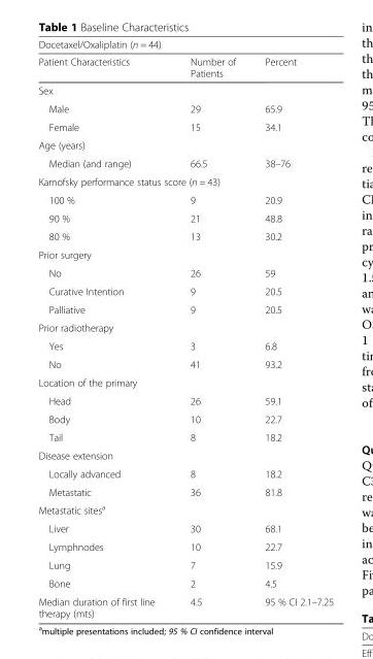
<table><thead><tr><td colspan="3">Docetaxel/Oxaliplatin (n = 44)</td></tr><tr><td>Patient Characteristics</td><td>Number of Patients</td><td>Percent</td></tr></thead><tbody><tr><td colspan="3">Sex</td></tr><tr><td>Male</td><td>29</td><td>65.9</td></tr><tr><td>Female</td><td>15</td><td>34.1</td></tr><tr><td colspan="3">Age (years)</td></tr><tr><td>Median (and range)</td><td>66.5</td><td>38–76</td></tr><tr><td colspan="3">Karnofsky performance status score (n = 43)</td></tr><tr><td>100 %</td><td>9</td><td>20.9</td></tr><tr><td>90 %</td><td>21</td><td>48.8</td></tr><tr><td>80 %</td><td>13</td><td>30.2</td></tr><tr><td colspan="3">Prior surgery</td></tr><tr><td>No</td><td>26</td><td>59</td></tr><tr><td>Curative Intention</td><td>9</td><td>20.5</td></tr><tr><td>Palliative</td><td>9</td><td>20.5</td></tr><tr><td colspan="3">Prior radiotherapy</td></tr><tr><td>Yes</td><td>3</td><td>6.8</td></tr><tr><td>No</td><td>41</td><td>93.2</td></tr><tr><td colspan="3">Location of the primary</td></tr><tr><td>Head</td><td>26</td><td>59.1</td></tr><tr><td>Body</td><td>10</td><td>22.7</td></tr><tr><td>Tail</td><td>8</td><td>18.2</td></tr><tr><td colspan="3">Disease extension</td></tr><tr><td>Locally advanced</td><td>8</td><td>18.2</td></tr><tr><td>Metastatic</td><td>36</td><td>81.8</td></tr><tr><td colspan="3">Metastatic sites<sup>a</sup></td></tr><tr><td>Liver</td><td>30</td><td>68.1</td></tr><tr><td>Lymphnodes</td><td>10</td><td>22.7</td></tr><tr><td>Lung</td><td>7</td><td>15.9</td></tr><tr><td>Bone</td><td>2</td><td>4.5</td></tr><tr><td>Median duration of first line therapy (mts)</td><td>4.5</td><td>95 % CI 2.1–7.25</td></tr></tbody></table>